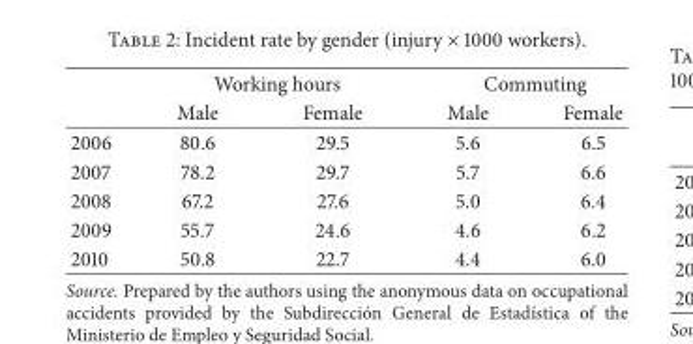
<table><thead><tr><td rowspan="2"></td><td colspan="2">Working hours</td><td colspan="2">Commuting</td></tr><tr><td>Male</td><td>Female</td><td>Male</td><td>Female</td></tr></thead><tbody><tr><td>2006</td><td>80.6</td><td>29.5</td><td>5.6</td><td>6.5</td></tr><tr><td>2007</td><td>78.2</td><td>29.7</td><td>5.7</td><td>6.6</td></tr><tr><td>2008</td><td>67.2</td><td>27.6</td><td>5.0</td><td>6.4</td></tr><tr><td>2009</td><td>55.7</td><td>24.6</td><td>4.6</td><td>6.2</td></tr><tr><td>2010</td><td>50.8</td><td>22.7</td><td>4.4</td><td>6.0</td></tr></tbody></table>